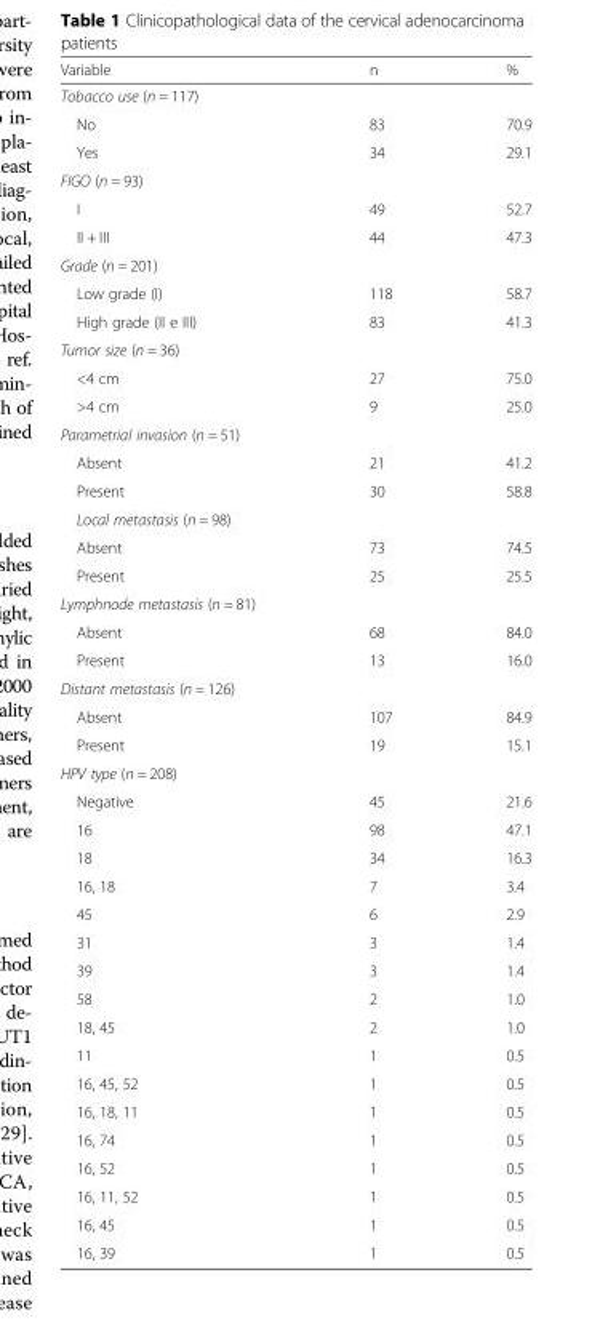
<table><thead><tr><td>Variable</td><td>n</td><td>%</td></tr></thead><tbody><tr><td colspan="3">Tobacco use (n = 117)</td></tr><tr><td>No</td><td>83</td><td>70.9</td></tr><tr><td>Yes</td><td>34</td><td>29.1</td></tr><tr><td colspan="3">FIGO (n = 93)</td></tr><tr><td>I</td><td>49</td><td>52.7</td></tr><tr><td>II + III</td><td>44</td><td>47.3</td></tr><tr><td colspan="3">Grade (n = 201)</td></tr><tr><td>Low grade (I)</td><td>118</td><td>58.7</td></tr><tr><td>High grade (II e III)</td><td>83</td><td>41.3</td></tr><tr><td colspan="3">Tumor size (n = 36)</td></tr><tr><td>&lt;4 cm</td><td>27</td><td>75.0</td></tr><tr><td>&gt;4 cm</td><td>9</td><td>25.0</td></tr><tr><td colspan="3">Parametrial invasion (n = 51)</td></tr><tr><td>Absent</td><td>21</td><td>41.2</td></tr><tr><td>Present</td><td>30</td><td>58.8</td></tr><tr><td colspan="3">Local metastasis (n = 98)</td></tr><tr><td>Absent</td><td>73</td><td>74.5</td></tr><tr><td>Present</td><td>25</td><td>25.5</td></tr><tr><td colspan="3">Lymphnode metastasis (n = 81)</td></tr><tr><td>Absent</td><td>68</td><td>84.0</td></tr><tr><td>Present</td><td>13</td><td>16.0</td></tr><tr><td colspan="3">Distant metastasis (n = 126)</td></tr><tr><td>Absent</td><td>107</td><td>84.9</td></tr><tr><td>Present</td><td>19</td><td>15.1</td></tr><tr><td colspan="3">HPV type (n = 208)</td></tr><tr><td>Negative</td><td>45</td><td>21.6</td></tr><tr><td>16</td><td>98</td><td>47.1</td></tr><tr><td>18</td><td>34</td><td>16.3</td></tr><tr><td>16, 18</td><td>7</td><td>3.4</td></tr><tr><td>45</td><td>6</td><td>2.9</td></tr><tr><td>31</td><td>3</td><td>1.4</td></tr><tr><td>39</td><td>3</td><td>1.4</td></tr><tr><td>58</td><td>2</td><td>1.0</td></tr><tr><td>18, 45</td><td>2</td><td>1.0</td></tr><tr><td>11</td><td>1</td><td>0.5</td></tr><tr><td>16, 45, 52</td><td>1</td><td>0.5</td></tr><tr><td>16, 18, 11</td><td>1</td><td>0.5</td></tr><tr><td>16, 74</td><td>1</td><td>0.5</td></tr><tr><td>16, 52</td><td>1</td><td>0.5</td></tr><tr><td>16, 11, 52</td><td>1</td><td>0.5</td></tr><tr><td>16, 45</td><td>1</td><td>0.5</td></tr><tr><td>16, 39</td><td>1</td><td>0.5</td></tr></tbody></table>